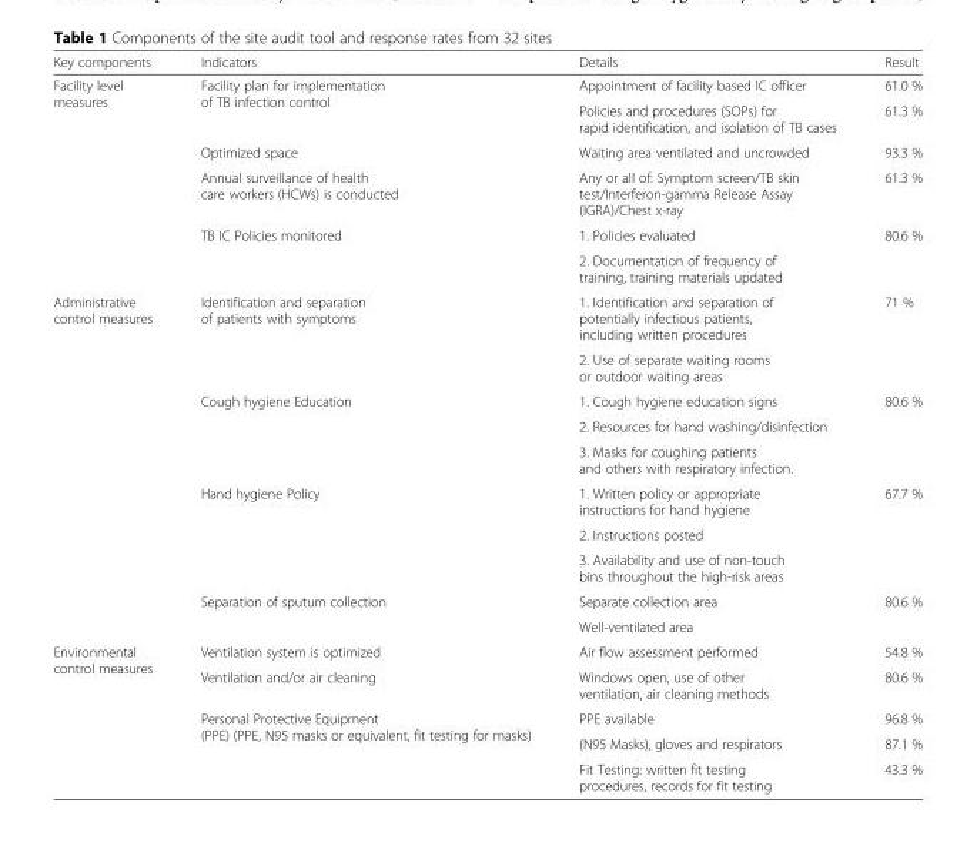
<table><thead><tr><td>Key components</td><td>Indicators</td><td>Details</td><td>Result</td></tr></thead><tbody><tr><td rowspan="6">Facility level measures</td><td rowspan="2">Facility plan for implementation of TB infection control</td><td>Appointment of facility based IC officer</td><td>61.0 %</td></tr><tr><td>Policies and procedures (SOPs) for rapid identification, and isolation of TB cases</td><td>61.3 %</td></tr><tr><td>Optimized space</td><td>Waiting area ventilated and uncrowded</td><td>93.3 %</td></tr><tr><td>Annual surveillance of health care workers (HCWs) is conducted</td><td>Any or all of: Symptom screen/TB skin test/Interferon-gamma Release Assay (IGRA)/Chest x-ray</td><td>61.3 %</td></tr><tr><td rowspan="2">TB IC Policies monitored</td><td>1. Policies evaluated</td><td rowspan="2">80.6 %</td></tr><tr><td>2. Documentation of frequency of training, training materials updated</td></tr><tr><td rowspan="10">Administrative control measures</td><td rowspan="2">Identification and separation of patients with symptoms</td><td>1. Identification and separation of potentially infectious patients, including written procedures</td><td rowspan="2">71 %</td></tr><tr><td>2. Use of separate waiting rooms or outdoor waiting areas</td></tr><tr><td rowspan="3">Cough hygiene Education</td><td>1. Cough hygiene education signs</td><td rowspan="3">80.6 %</td></tr><tr><td>2. Resources for hand washing/disinfection</td></tr><tr><td>3. Masks for coughing patients and others with respiratory infection.</td></tr><tr><td rowspan="3">Hand hygiene Policy</td><td>1. Written policy or appropriate instructions for hand hygiene</td><td rowspan="3">67.7 %</td></tr><tr><td>2. Instructions posted</td></tr><tr><td>3. Availability and use of non-touch bins throughout the high-risk areas</td></tr><tr><td rowspan="2">Separation of sputum collection</td><td>Separate collection area</td><td rowspan="2">80.6 %</td></tr><tr><td>Well-ventilated area</td></tr><tr><td rowspan="5">Environmental control measures</td><td>Ventilation system is optimized</td><td>Air flow assessment performed</td><td>54.8 %</td></tr><tr><td>Ventilation and/or air cleaning</td><td>Windows open, use of other ventilation, air cleaning methods</td><td>80.6 %</td></tr><tr><td rowspan="3">Personal Protective Equipment (PPE) (PPE, N95 masks or equivalent, fit testing for masks)</td><td>PPE available</td><td>96.8 %</td></tr><tr><td>(N95 Masks), gloves and respirators</td><td>87.1 %</td></tr><tr><td>Fit Testing: written fit testing procedures, records for fit testing</td><td>43.3 %</td></tr></tbody></table>